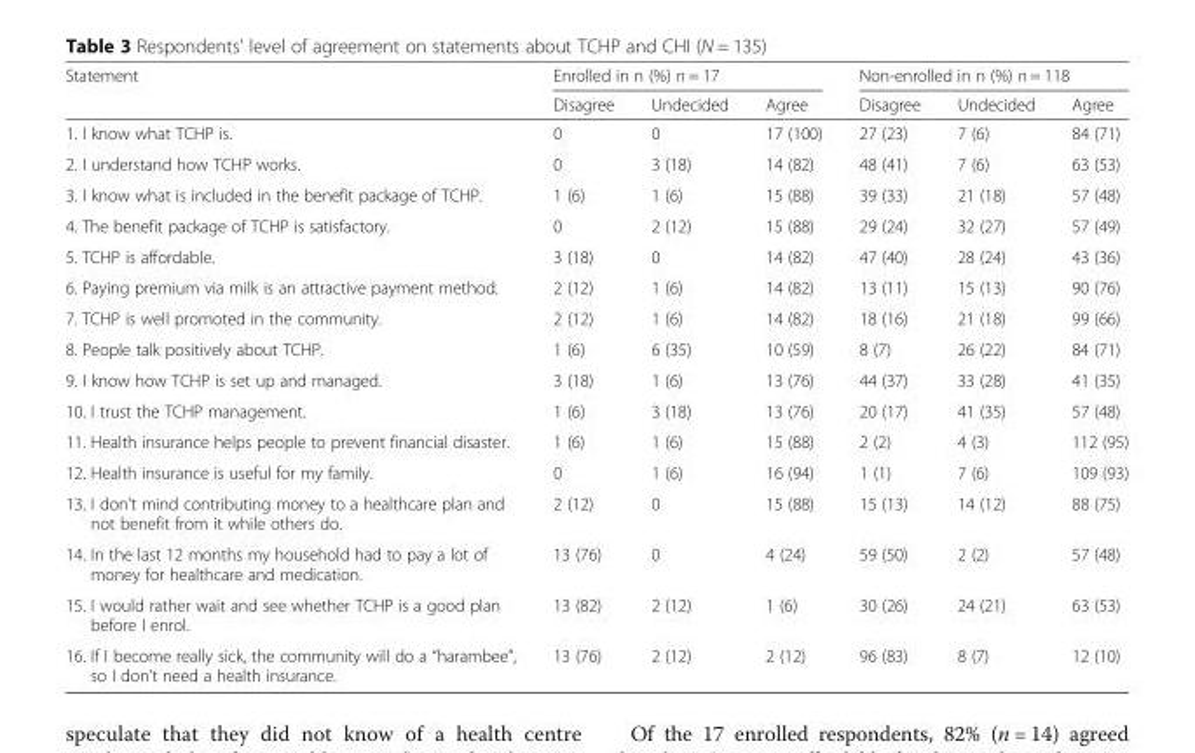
<table><thead><tr><td rowspan="2">Statement</td><td colspan="3">Enrolled in n (%) n = 17</td><td colspan="3">Non-enrolled in n (%) n = 118</td></tr><tr><td>Disagree</td><td>Undecided</td><td>Agree</td><td>Disagree</td><td>Undecided</td><td>Agree</td></tr></thead><tbody><tr><td>1. I know what TCHP is.</td><td>0</td><td>0</td><td>17 (100)</td><td>27 (23)</td><td>7 (6)</td><td>84 (71)</td></tr><tr><td>2. I understand how TCHP works.</td><td>0</td><td>3 (18)</td><td>14 (82)</td><td>48 (41)</td><td>7 (6)</td><td>63 (53)</td></tr><tr><td>3. I know what is included in the benefit package of TCHP.</td><td>1 (6)</td><td>1 (6)</td><td>15 (88)</td><td>39 (33)</td><td>21 (18)</td><td>57 (48)</td></tr><tr><td>4. The benefit package of TCHP is satisfactory.</td><td>0</td><td>2 (12)</td><td>15 (88)</td><td>29 (24)</td><td>32 (27)</td><td>57 (49)</td></tr><tr><td>5. TCHP is affordable.</td><td>3 (18)</td><td>0</td><td>14 (82)</td><td>47 (40)</td><td>28 (24)</td><td>43 (36)</td></tr><tr><td>6. Paying premium via milk is an attractive payment method.</td><td>2 (12)</td><td>1 (6)</td><td>14 (82)</td><td>13 (11)</td><td>15 (13)</td><td>90 (76)</td></tr><tr><td>7. TCHP is well promoted in the community.</td><td>2 (12)</td><td>1 (6)</td><td>14 (82)</td><td>18 (16)</td><td>21 (18)</td><td>99 (66)</td></tr><tr><td>8. People talk positively about TCHP.</td><td>1 (6)</td><td>6 (35)</td><td>10 (59)</td><td>8 (7)</td><td>26 (22)</td><td>84 (71)</td></tr><tr><td>9. I know how TCHP is set up and managed.</td><td>3 (18)</td><td>1 (6)</td><td>13 (76)</td><td>44 (37)</td><td>33 (28)</td><td>41 (35)</td></tr><tr><td>10. I trust the TCHP management.</td><td>1 (6)</td><td>3 (18)</td><td>13 (76)</td><td>20 (17)</td><td>41 (35)</td><td>57 (48)</td></tr><tr><td>11. Health insurance helps people to prevent financial disaster.</td><td>1 (6)</td><td>1 (6)</td><td>15 (88)</td><td>2 (2)</td><td>4 (3)</td><td>112 (95)</td></tr><tr><td>12. Health insurance is useful for my family.</td><td>0</td><td>1 (6)</td><td>16 (94)</td><td>1 (1)</td><td>7 (6)</td><td>109 (93)</td></tr><tr><td>13. I don’t mind contributing money to a healthcare plan and not benefit from it while others do.</td><td>2 (12)</td><td>0</td><td>15 (88)</td><td>15 (13)</td><td>14 (12)</td><td>88 (75)</td></tr><tr><td>14. In the last 12 months my household had to pay a lot of money for healthcare and medication.</td><td>13 (76)</td><td>0</td><td>4 (24)</td><td>59 (50)</td><td>2 (2)</td><td>57 (48)</td></tr><tr><td>15. I would rather wait and see whether TCHP is a good plan before I enrol.</td><td>13 (82)</td><td>2 (12)</td><td>1 (6)</td><td>30 (26)</td><td>24 (21)</td><td>63 (53)</td></tr><tr><td>16. If I become really sick, the community will do a “harambee”, so I don’t need a health insurance.</td><td>13 (76)</td><td>2 (12)</td><td>2 (12)</td><td>96 (83)</td><td>8 (7)</td><td>12 (10)</td></tr></tbody></table>